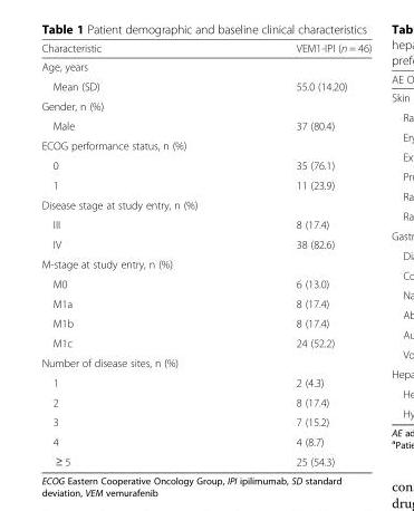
<table><thead><tr><td>Characteristic</td><td>VEM1-IPI (n = 46)</td></tr></thead><tbody><tr><td colspan="2">Age, years</td></tr><tr><td>Mean (SD)</td><td>55.0 (14.20)</td></tr><tr><td colspan="2">Gender, n (%)</td></tr><tr><td>Male</td><td>37 (80.4)</td></tr><tr><td colspan="2">ECOG performance status, n (%)</td></tr><tr><td>0</td><td>35 (76.1)</td></tr><tr><td>1</td><td>11 (23.9)</td></tr><tr><td colspan="2">Disease stage at study entry, n (%)</td></tr><tr><td>III</td><td>8 (17.4)</td></tr><tr><td>IV</td><td>38 (82.6)</td></tr><tr><td colspan="2">M-stage at study entry, n (%)</td></tr><tr><td>M0</td><td>6 (13.0)</td></tr><tr><td>M1a</td><td>8 (17.4)</td></tr><tr><td>M1b</td><td>8 (17.4)</td></tr><tr><td>M1c</td><td>24 (52.2)</td></tr><tr><td colspan="2">Number of disease sites, n (%)</td></tr><tr><td>1</td><td>2 (4.3)</td></tr><tr><td>2</td><td>8 (17.4)</td></tr><tr><td>3</td><td>7 (15.2)</td></tr><tr><td>4</td><td>4 (8.7)</td></tr><tr><td>≥ 5</td><td>25 (54.3)</td></tr></tbody></table>